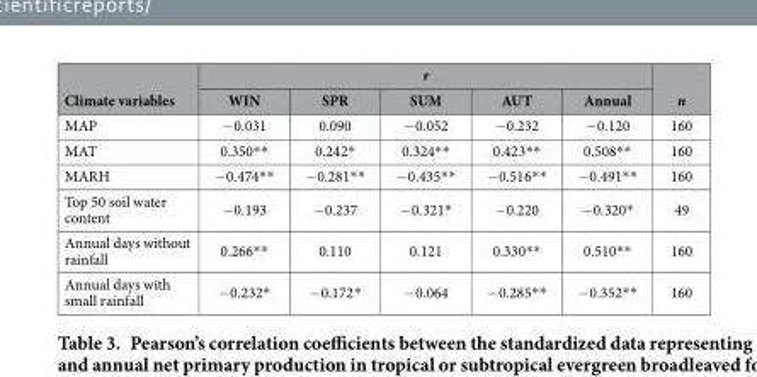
<table><thead><tr><td rowspan="2">Climate variables</td><td colspan="5">r</td><td rowspan="2">n</td></tr><tr><td>WIN</td><td>SPR</td><td>SUM</td><td>AUT</td><td>Annual</td></tr></thead><tbody><tr><td>MAP</td><td>− 0.031</td><td>0.090</td><td>− 0.052</td><td>− 0.232</td><td>− 0.120</td><td>160</td></tr><tr><td>MAT</td><td>0.350* *</td><td>0.242*</td><td>0.324* *</td><td>0.423* *</td><td>0.508* *</td><td>160</td></tr><tr><td>MARH</td><td>− 0.474* *</td><td>− 0.281* *</td><td>− 0.435* *</td><td>− 0.516* *</td><td>− 0.491* *</td><td>160</td></tr><tr><td>Top 50 soil water content</td><td>− 0.193</td><td>− 0.237</td><td>− 0.321*</td><td>− 0.220</td><td>− 0.320*</td><td>49</td></tr><tr><td>Annual days without rainfall</td><td>0.266* *</td><td>0.110</td><td>0.121</td><td>0.330* *</td><td>0.510* *</td><td>160</td></tr><tr><td>Annual days with small rainfall</td><td>− 0.232*</td><td>− 0.172*</td><td>− 0.064</td><td>− 0.285* *</td><td>− 0.352* *</td><td>160</td></tr></tbody></table>